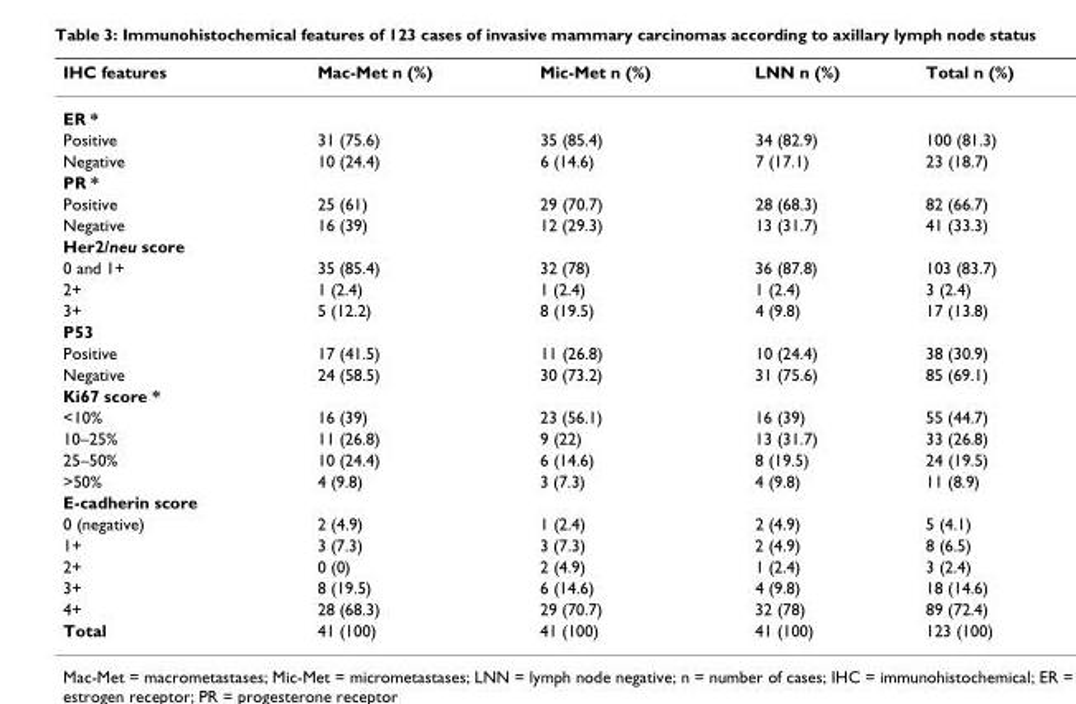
<table><thead><tr><td>IHC features</td><td>Mac-Met n (%)</td><td>Mic-Met n (%)</td><td>LNN n (%)</td><td>Total n (%)</td></tr></thead><tbody><tr><td colspan="5">ER *</td></tr><tr><td>Positive</td><td>31 (75.6)</td><td>35 (85.4)</td><td>34 (82.9)</td><td>100 (81.3)</td></tr><tr><td>Negative</td><td>10 (24.4)</td><td>6 (14.6)</td><td>7 (17.1)</td><td>23 (18.7)</td></tr><tr><td colspan="5">PR *</td></tr><tr><td>Positive</td><td>25 (61)</td><td>29 (70.7)</td><td>28 (68.3)</td><td>82 (66.7)</td></tr><tr><td>Negative</td><td>16 (39)</td><td>12 (29.3)</td><td>13 (31.7)</td><td>41 (33.3)</td></tr><tr><td colspan="5">Her2/neu score</td></tr><tr><td>0 and 1+</td><td>35 (85.4)</td><td>32 (78)</td><td>36 (87.8)</td><td>103 (83.7)</td></tr><tr><td>2+</td><td>1 (2.4)</td><td>1 (2.4)</td><td>1 (2.4)</td><td>3 (2.4)</td></tr><tr><td>3+</td><td>5 (12.2)</td><td>8 (19.5)</td><td>4 (9.8)</td><td>17 (13.8)</td></tr><tr><td colspan="5">P53</td></tr><tr><td>Positive</td><td>17 (41.5)</td><td>11 (26.8)</td><td>10 (24.4)</td><td>38 (30.9)</td></tr><tr><td>Negative</td><td>24 (58.5)</td><td>30 (73.2)</td><td>31 (75.6)</td><td>85 (69.1)</td></tr><tr><td colspan="5">Ki67 score *</td></tr><tr><td>&lt;10%</td><td>16 (39)</td><td>23 (56.1)</td><td>16 (39)</td><td>55 (44.7)</td></tr><tr><td>10–25%</td><td>11 (26.8)</td><td>9 (22)</td><td>13 (31.7)</td><td>33 (26.8)</td></tr><tr><td>25–50%</td><td>10 (24.4)</td><td>6 (14.6)</td><td>8 (19.5)</td><td>24 (19.5)</td></tr><tr><td>&gt;50%</td><td>4 (9.8)</td><td>3 (7.3)</td><td>4 (9.8)</td><td>11 (8.9)</td></tr><tr><td colspan="5">E-cadherin score</td></tr><tr><td>0 (negative)</td><td>2 (4.9)</td><td>1 (2.4)</td><td>2 (4.9)</td><td>5 (4.1)</td></tr><tr><td>1+</td><td>3 (7.3)</td><td>3 (7.3)</td><td>2 (4.9)</td><td>8 (6.5)</td></tr><tr><td>2+</td><td>0 (0)</td><td>2 (4.9)</td><td>1 (2.4)</td><td>3 (2.4)</td></tr><tr><td>3+</td><td>8 (19.5)</td><td>6 (14.6)</td><td>4 (9.8)</td><td>18 (14.6)</td></tr><tr><td>4+</td><td>28 (68.3)</td><td>29 (70.7)</td><td>32 (78)</td><td>89 (72.4)</td></tr><tr><td>Total</td><td>41 (100)</td><td>41 (100)</td><td>41 (100)</td><td>123 (100)</td></tr></tbody></table>